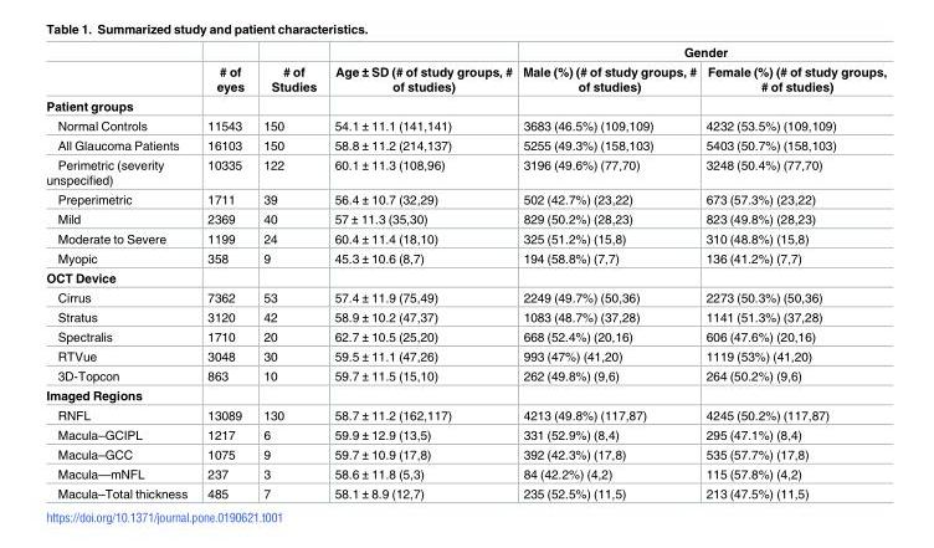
<table><thead><tr><td rowspan="2"></td><td rowspan="2"># of eyes</td><td rowspan="2"># of Studies</td><td rowspan="2">Age ± SD (# of study groups, # of studies)</td><td colspan="2">Gender</td></tr><tr><td>Male (%) (# of study groups, # of studies)</td><td>Female (%) (# of study groups, # of studies)</td></tr></thead><tbody><tr><td colspan="6">Patient groups</td></tr><tr><td>Normal Controls</td><td>11543</td><td>150</td><td>54.1 ± 11.1 (141,141)</td><td>3683 (46.5%) (109,109)</td><td>4232 (53.5%) (109,109)</td></tr><tr><td>All Glaucoma Patients</td><td>16103</td><td>150</td><td>58.8 ± 11.2 (214,137)</td><td>5255 (49.3%) (158,103)</td><td>5403 (50.7%) (158,103)</td></tr><tr><td>Perimetric (severity unspecified)</td><td>10335</td><td>122</td><td>60.1 ± 11.3 (108,96)</td><td>3196 (49.6%) (77,70)</td><td>3248 (50.4%) (77,70)</td></tr><tr><td>Preperimetric</td><td>1711</td><td>39</td><td>56.4 ± 10.7 (32,29)</td><td>502 (42.7%) (23,22)</td><td>673 (57.3%) (23,22)</td></tr><tr><td>Mild</td><td>2369</td><td>40</td><td>57 ± 11.3 (35,30)</td><td>829 (50.2%) (28,23)</td><td>823 (49.8%) (28,23)</td></tr><tr><td>Moderate to Severe</td><td>1199</td><td>24</td><td>60.4 ± 11.4 (18,10)</td><td>325 (51.2%) (15,8)</td><td>310 (48.8%) (15,8)</td></tr><tr><td>Myopic</td><td>358</td><td>9</td><td>45.3 ± 10.6 (8,7)</td><td>194 (58.8%) (7,7)</td><td>136 (41.2%) (7,7)</td></tr><tr><td colspan="6">OCT Device</td></tr><tr><td>Cirrus</td><td>7362</td><td>53</td><td>57.4 ± 11.9 (75,49)</td><td>2249 (49.7%) (50,36)</td><td>2273 (50.3%) (50,36)</td></tr><tr><td>Stratus</td><td>3120</td><td>42</td><td>58.9 ± 10.2 (47,37)</td><td>1083 (48.7%) (37,28)</td><td>1141 (51.3%) (37,28)</td></tr><tr><td>Spectralis</td><td>1710</td><td>20</td><td>62.7 ± 10.5 (25,20)</td><td>668 (52.4%) (20,16)</td><td>606 (47.6%) (20,16)</td></tr><tr><td>RTVue</td><td>3048</td><td>30</td><td>59.5 ± 11.1 (47,26)</td><td>993 (47%) (41,20)</td><td>1119 (53%) (41,20)</td></tr><tr><td>3D-Topcon</td><td>863</td><td>10</td><td>59.7 ± 11.5 (15,10)</td><td>262 (49.8%) (9,6)</td><td>264 (50.2%) (9,6)</td></tr><tr><td colspan="6">Imaged Regions</td></tr><tr><td>RNFL</td><td>13089</td><td>130</td><td>58.7 ± 11.2 (162,117)</td><td>4213 (49.8%) (117,87)</td><td>4245 (50.2%) (117,87)</td></tr><tr><td>Macula–GCIPL</td><td>1217</td><td>6</td><td>59.9 ± 12.9 (13,5)</td><td>331 (52.9%) (8,4)</td><td>295 (47.1%) (8,4)</td></tr><tr><td>Macula–GCC</td><td>1075</td><td>9</td><td>59.7 ± 10.9 (17,8)</td><td>392 (42.3%) (17,8)</td><td>535 (57.7%) (17,8)</td></tr><tr><td>Macula—mNFL</td><td>237</td><td>3</td><td>58.6 ± 11.8 (5,3)</td><td>84 (42.2%) (4,2)</td><td>115 (57.8%) (4,2)</td></tr><tr><td>Macula–Total thickness</td><td>485</td><td>7</td><td>58.1 ± 8.9 (12,7)</td><td>235 (52.5%) (11,5)</td><td>213 (47.5%) (11,5)</td></tr></tbody></table>